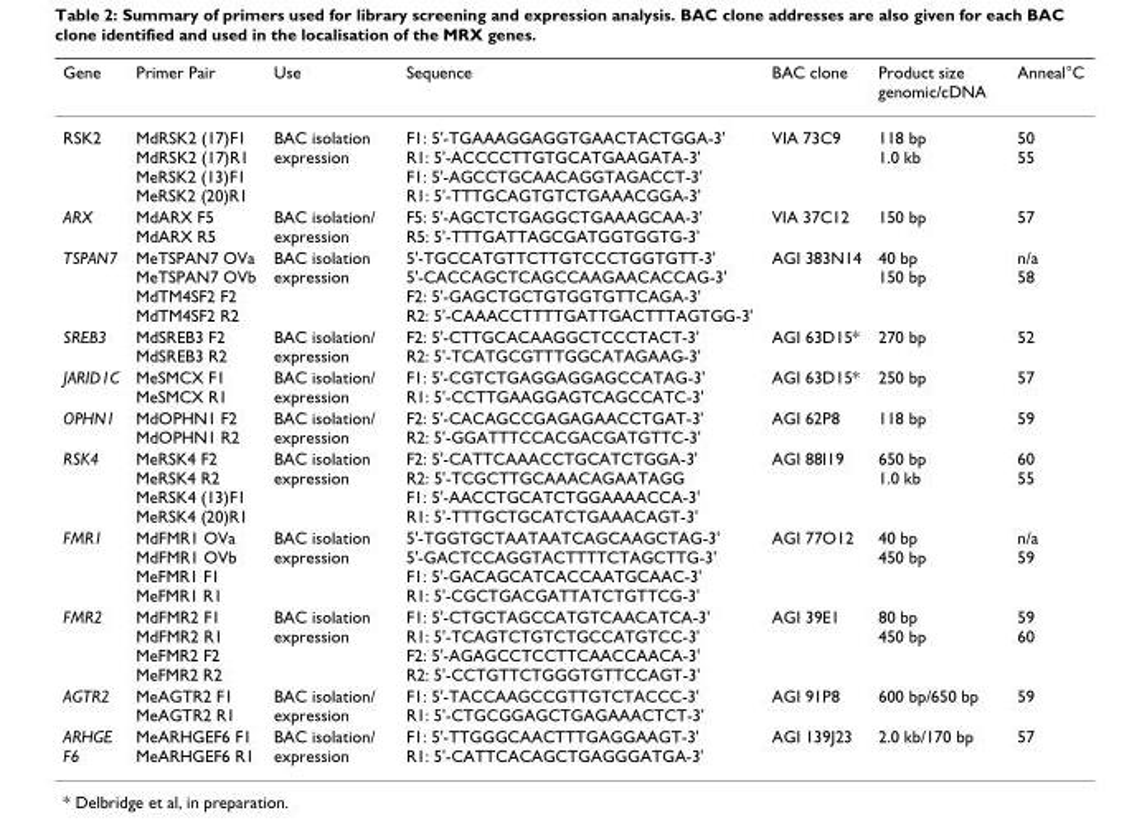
<table><thead><tr><td>Gene</td><td>Primer Pair</td><td>Use</td><td>Sequence</td><td>BAC clone</td><td>Product size genomic/cDNA</td><td>Anneal°C</td></tr></thead><tbody><tr><td>RSK2</td><td>MdRSK2 (17)F1 MdRSK2 (17)R1 MeRSK2 (13)F1 MeRSK2 (20)R1</td><td>BAC isolation expression</td><td>F1: 5&#x27;-TGAAAGGAGGTGAACTACTGGA-3&#x27; R1: 5&#x27;-ACCCCTTGTGCATGAAGATA-3&#x27; F1: 5&#x27;-AGCCTGCAACAGGTAGACCT-3&#x27; R1: 5&#x27;-TTTGCAGTGTCTGAAACGGA-3&#x27;</td><td>VIA 73C9</td><td>118 bp 1.0 kb</td><td>50 55</td></tr><tr><td>ARX</td><td>MdARX F5 MdARX R5</td><td>BAC isolation/ expression</td><td>F5: 5&#x27;-AGCTCTGAGGCTGAAAGCAA-3&#x27; R5: 5&#x27;-TTTGATTAGCGATGGTGGTG-3&#x27;</td><td>VIA 37C12</td><td>150 bp</td><td>57</td></tr><tr><td>TSPAN7</td><td>MeTSPAN7 OVa MeTSPAN7 OVb MdTM4SF2 F2 MdTM4SF2 R2</td><td>BAC isolation expression</td><td>5&#x27;-TGCCATGTTCTTGTCCCTGGTGTT-3&#x27; 5&#x27;-CACCAGCTCAGCCAAGAACACCAG-3&#x27; F2: 5&#x27;-GAGCTGCTGTGGTGTTCAGA-3&#x27; R2: 5&#x27;-CAAACCTTTTGATTGACTTTAGTGG-3&#x27;</td><td>AGI 383N14</td><td>40 bp 150 bp</td><td>n/a 58</td></tr><tr><td>SREB3</td><td>MdSREB3 F2 MdSREB3 R2</td><td>BAC isolation/ expression</td><td>F2: 5&#x27;-CTTGCACAAGGCTCCCTACT-3&#x27; R2: 5&#x27;-TCATGCGTTTGGCATAGAAG-3&#x27;</td><td>AGI 63D15*</td><td>270 bp</td><td>52</td></tr><tr><td>JARID1C</td><td>MeSMCX F1 MeSMCX R1</td><td>BAC isolation/ expression</td><td>F1: 5&#x27;-CGTCTGAGGAGGAGCCATAG-3&#x27; R1: 5&#x27;-CCTTGAAGGAGTCAGCCATC-3&#x27;</td><td>AGI 63D15*</td><td>250 bp</td><td>57</td></tr><tr><td>OPHN1</td><td>MdOPHN1 F2 MdOPHN1 R2</td><td>BAC isolation/ expression</td><td>F2: 5&#x27;-CACAGCCGAGAGAACCTGAT-3&#x27; R2: 5&#x27;-GGATTTCCACGACGATGTTC-3&#x27;</td><td>AGI 62P8</td><td>118 bp</td><td>59</td></tr><tr><td>RSK4</td><td>MeRSK4 F2 MeRSK4 R2 MeRSK4 (13)F1 MeRSK4 (20)R1</td><td>BAC isolation expression</td><td>F2: 5&#x27;-CATTCAAACCTGCATCTGGA-3&#x27; R2: 5&#x27;-TCGCTTGCAAACAGAATAGG F1: 5&#x27;-AACCTGCATCTGGAAAACCA-3&#x27; R1: 5&#x27;-TTTGCTGCATCTGAAACAGT-3&#x27;</td><td>AGI 88I19</td><td>650 bp 1.0 kb</td><td>60 55</td></tr><tr><td>FMR1</td><td>MdFMR1 OVa MdFMR1 OVb MeFMR1 F1 MeFMR1 R1</td><td>BAC isolation expression</td><td>5&#x27;-TGGTGCTAATAATCAGCAAGCTAG-3&#x27; 5&#x27;-GACTCCAGGTACTTTTCTAGCTTG-3&#x27; F1: 5&#x27;-GACAGCATCACCAATGCAAC-3&#x27; R1: 5&#x27;-CGCTGACGATTATCTGTTCG-3&#x27;</td><td>AGI 77O12</td><td>40 bp 450 bp</td><td>n/a 59</td></tr><tr><td>FMR2</td><td>MdFMR2 F1 MdFMR2 R1 MeFMR2 F2 MeFMR2 R2</td><td>BAC isolation expression</td><td>F1: 5&#x27;-CTGCTAGCCATGTCAACATCA-3&#x27; R1: 5&#x27;-TCAGTCTGTCTGCCATGTCC-3&#x27; F2: 5&#x27;-AGAGCCTCCTTCAACCAACA-3&#x27; R2: 5&#x27;-CCTGTTCTGGGTGTTCCAGT-3&#x27;</td><td>AGI 39E1</td><td>80 bp 450 bp</td><td>59 60</td></tr><tr><td>AGTR2</td><td>MeAGTR2 F1 MeAGTR2 R1</td><td>BAC isolation/ expression</td><td>F1: 5&#x27;-TACCAAGCCGTTGTCTACCC-3&#x27; R1: 5&#x27;-CTGCGGAGCTGAGAAACTCT-3&#x27;</td><td>AGI 91P8</td><td>600 bp/650 bp</td><td>59</td></tr><tr><td>ARHGE F6</td><td>MeARHGEF6 F1 MeARHGEF6 R1</td><td>BAC isolation/ expression</td><td>F1: 5&#x27;-TTGGGCAACTTTGAGGAAGT-3&#x27; R1: 5&#x27;-CATTCACAGCTGAGGGATGA-3&#x27;</td><td>AGI 139J23</td><td>2.0 kb/170 bp</td><td>57</td></tr></tbody></table>